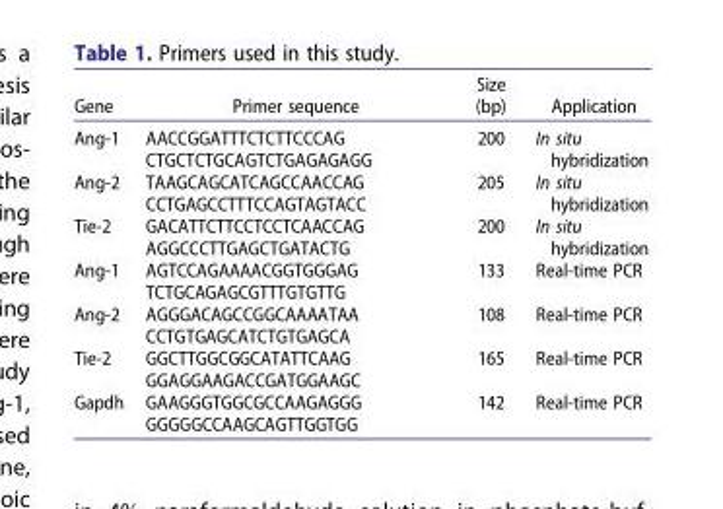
<table><thead><tr><td>Gene</td><td>Primer sequence</td><td>Size (bp)</td><td>Application</td></tr></thead><tbody><tr><td>Ang-1</td><td>AACCGGATTTCTCTTCCCAG CTGCTCTGCAGTCTGAGAGAGG</td><td>200</td><td>In situ hybridization</td></tr><tr><td>Ang-2</td><td>TAAGCAGCATCAGCCAACCAG CCTGAGCCTTTCCAGTAGTACC</td><td>205</td><td>In situ hybridization</td></tr><tr><td>Tie-2</td><td>GACATTCTTCCTCCTCAACCAG AGGCCCTTGAGCTGATACTG</td><td>200</td><td>In situ hybridization</td></tr><tr><td>Ang-1</td><td>AGTCCAGAAAACGGTGGGAG TCTGCAGAGCGTTTGTGTTG</td><td>133</td><td>Real-time PCR</td></tr><tr><td>Ang-2</td><td>AGGGACAGCCGGCAAAATAA CCTGTGAGCATCTGTGAGCA</td><td>108</td><td>Real-time PCR</td></tr><tr><td>Tie-2</td><td>GGCTTGGCGGCATATTCAAG GGAGGAAGACCGATGGAAGC</td><td>165</td><td>Real-time PCR</td></tr><tr><td>Gapdh</td><td>GAAGGGTGGCGCCAAGAGGG GGGGGCCAAGCAGTTGGTGG</td><td>142</td><td>Real-time PCR</td></tr></tbody></table>